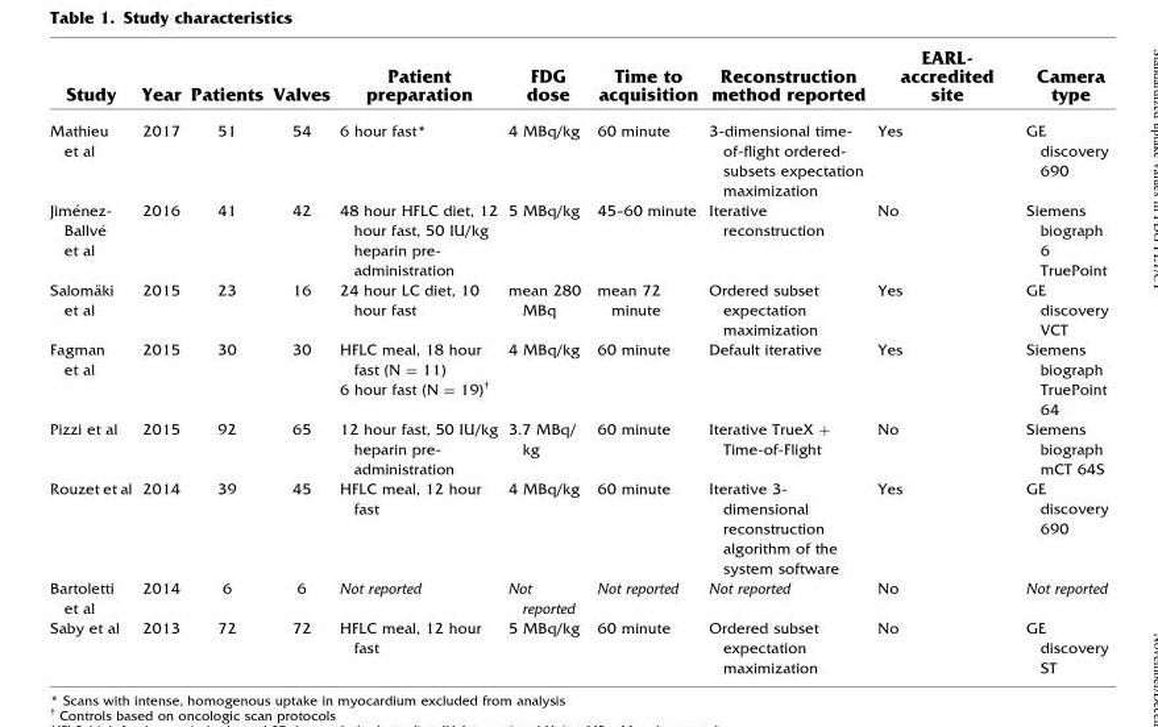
<table><thead><tr><td>Study</td><td>Year</td><td>Patients</td><td>Valves</td><td>Patient preparation</td><td>FDG dose</td><td>Time to acquisition</td><td>Reconstruction method reported</td><td>EARL- accredited site</td><td>Camera type</td></tr></thead><tbody><tr><td>Mathieu et al</td><td>2017</td><td>51</td><td>54</td><td>6 hour fast*</td><td>4 MBq/kg</td><td>60 minute</td><td>3-dimensional time- of-flight ordered- subsets expectation maximization</td><td>Yes</td><td>GE discovery 690</td></tr><tr><td>Jime´nez- Ballve´ et al</td><td>2016</td><td>41</td><td>42</td><td>48 hour HFLC diet, 12 hour fast, 50 IU/kg heparin pre- administration</td><td>5 MBq/kg</td><td>45–60 minute</td><td>Iterative reconstruction</td><td>No</td><td>Siemens biograph 6 TruePoint</td></tr><tr><td>Saloma¨ki et al</td><td>2015</td><td>23</td><td>16</td><td>24 hour LC diet, 10 hour fast</td><td>mean 280 MBq</td><td>mean 72 minute</td><td>Ordered subset expectation maximization</td><td>Yes</td><td>GE discovery VCT</td></tr><tr><td rowspan="2">Fagman et al</td><td rowspan="2">2015</td><td rowspan="2">30</td><td rowspan="2">30</td><td>HFLC meal, 18 hour fast (N = 11)</td><td rowspan="2">4 MBq/kg</td><td rowspan="2">60 minute</td><td rowspan="2">Default iterative</td><td rowspan="2">Yes</td><td rowspan="2">Siemens biograph TruePoint 64</td></tr><tr><td>6 hour fast (N = 19)<sup>†</sup></td></tr><tr><td>Pizzi et al</td><td>2015</td><td>92</td><td>65</td><td>12 hour fast, 50 IU/kg heparin pre- administration</td><td>3.7 MBq/ kg</td><td>60 minute</td><td>Iterative TrueX + Time-of-Flight</td><td>No</td><td>Siemens biograph mCT 64S</td></tr><tr><td>Rouzet et al</td><td>2014</td><td>39</td><td>45</td><td>HFLC meal, 12 hour fast</td><td>4 MBq/kg</td><td>60 minute</td><td>Iterative 3- dimensional reconstruction algorithm of the system software</td><td>Yes</td><td>GE discovery 690</td></tr><tr><td>Bartoletti et al</td><td>2014</td><td>6</td><td>6</td><td>Not reported</td><td>Not reported</td><td>Not reported</td><td>Not reported</td><td>No</td><td>Not reported</td></tr><tr><td>Saby et al</td><td>2013</td><td>72</td><td>72</td><td>HFLC meal, 12 hour fast</td><td>5 MBq/kg</td><td>60 minute</td><td>Ordered subset expectation maximization</td><td>No</td><td>GE discovery ST</td></tr></tbody></table>